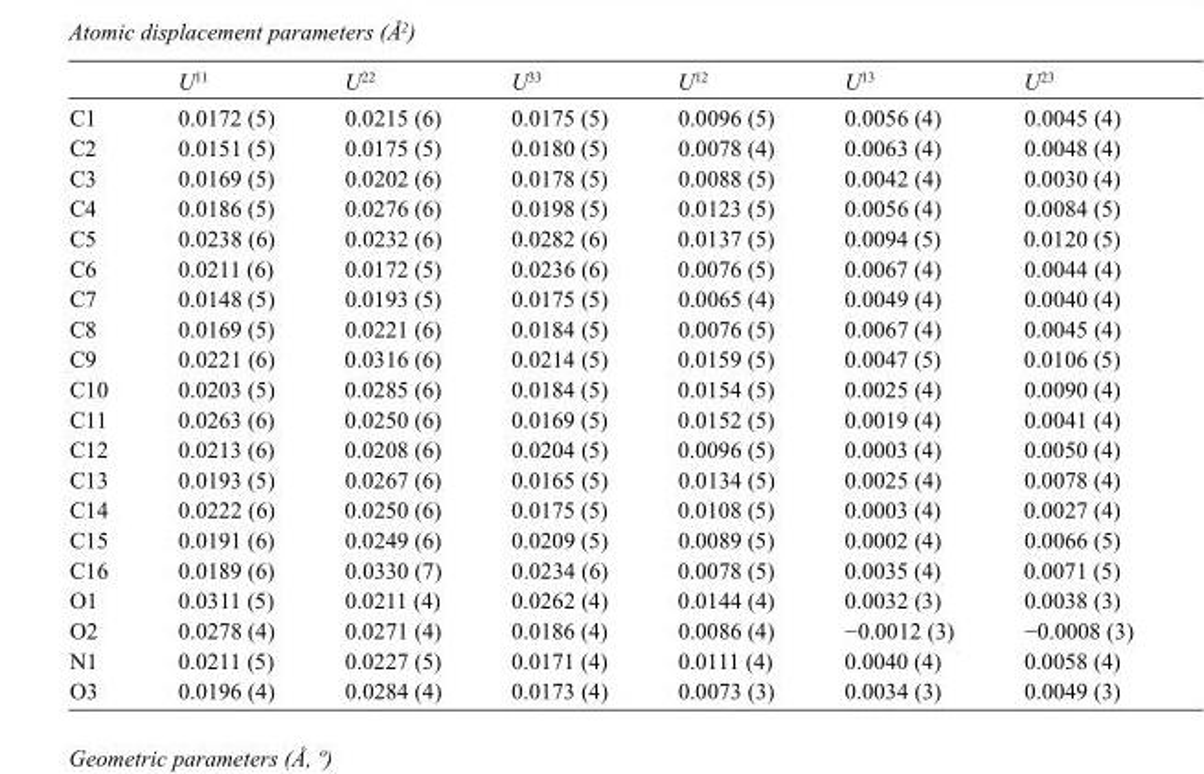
<table><thead><tr><td></td><td>U<sup>11</sup></td><td>U<sup>22</sup></td><td>U<sup>33</sup></td><td>U<sup>12</sup></td><td>U<sup>13</sup></td><td>U<sup>23</sup></td></tr></thead><tbody><tr><td>C1</td><td>0.0172 (5)</td><td>0.0215 (6)</td><td>0.0175 (5)</td><td>0.0096 (5)</td><td>0.0056 (4)</td><td>0.0045 (4)</td></tr><tr><td>C2</td><td>0.0151 (5)</td><td>0.0175 (5)</td><td>0.0180 (5)</td><td>0.0078 (4)</td><td>0.0063 (4)</td><td>0.0048 (4)</td></tr><tr><td>C3</td><td>0.0169 (5)</td><td>0.0202 (6)</td><td>0.0178 (5)</td><td>0.0088 (5)</td><td>0.0042 (4)</td><td>0.0030 (4)</td></tr><tr><td>C4</td><td>0.0186 (5)</td><td>0.0276 (6)</td><td>0.0198 (5)</td><td>0.0123 (5)</td><td>0.0056 (4)</td><td>0.0084 (5)</td></tr><tr><td>C5</td><td>0.0238 (6)</td><td>0.0232 (6)</td><td>0.0282 (6)</td><td>0.0137 (5)</td><td>0.0094 (5)</td><td>0.0120 (5)</td></tr><tr><td>C6</td><td>0.0211 (6)</td><td>0.0172 (5)</td><td>0.0236 (6)</td><td>0.0076 (5)</td><td>0.0067 (4)</td><td>0.0044 (4)</td></tr><tr><td>C7</td><td>0.0148 (5)</td><td>0.0193 (5)</td><td>0.0175 (5)</td><td>0.0065 (4)</td><td>0.0049 (4)</td><td>0.0040 (4)</td></tr><tr><td>C8</td><td>0.0169 (5)</td><td>0.0221 (6)</td><td>0.0184 (5)</td><td>0.0076 (5)</td><td>0.0067 (4)</td><td>0.0045 (4)</td></tr><tr><td>C9</td><td>0.0221 (6)</td><td>0.0316 (6)</td><td>0.0214 (5)</td><td>0.0159 (5)</td><td>0.0047 (5)</td><td>0.0106 (5)</td></tr><tr><td>C10</td><td>0.0203 (5)</td><td>0.0285 (6)</td><td>0.0184 (5)</td><td>0.0154 (5)</td><td>0.0025 (4)</td><td>0.0090 (4)</td></tr><tr><td>C11</td><td>0.0263 (6)</td><td>0.0250 (6)</td><td>0.0169 (5)</td><td>0.0152 (5)</td><td>0.0019 (4)</td><td>0.0041 (4)</td></tr><tr><td>C12</td><td>0.0213 (6)</td><td>0.0208 (6)</td><td>0.0204 (5)</td><td>0.0096 (5)</td><td>0.0003 (4)</td><td>0.0050 (4)</td></tr><tr><td>C13</td><td>0.0193 (5)</td><td>0.0267 (6)</td><td>0.0165 (5)</td><td>0.0134 (5)</td><td>0.0025 (4)</td><td>0.0078 (4)</td></tr><tr><td>C14</td><td>0.0222 (6)</td><td>0.0250 (6)</td><td>0.0175 (5)</td><td>0.0108 (5)</td><td>0.0003 (4)</td><td>0.0027 (4)</td></tr><tr><td>C15</td><td>0.0191 (6)</td><td>0.0249 (6)</td><td>0.0209 (5)</td><td>0.0089 (5)</td><td>0.0002 (4)</td><td>0.0066 (5)</td></tr><tr><td>C16</td><td>0.0189 (6)</td><td>0.0330 (7)</td><td>0.0234 (6)</td><td>0.0078 (5)</td><td>0.0035 (4)</td><td>0.0071 (5)</td></tr><tr><td>O1</td><td>0.0311 (5)</td><td>0.0211 (4)</td><td>0.0262 (4)</td><td>0.0144 (4)</td><td>0.0032 (3)</td><td>0.0038 (3)</td></tr><tr><td>O2</td><td>0.0278 (4)</td><td>0.0271 (4)</td><td>0.0186 (4)</td><td>0.0086 (4)</td><td>−0.0012 (3)</td><td>−0.0008 (3)</td></tr><tr><td>N1</td><td>0.0211 (5)</td><td>0.0227 (5)</td><td>0.0171 (4)</td><td>0.0111 (4)</td><td>0.0040 (4)</td><td>0.0058 (4)</td></tr><tr><td>O3</td><td>0.0196 (4)</td><td>0.0284 (4)</td><td>0.0173 (4)</td><td>0.0073 (3)</td><td>0.0034 (3)</td><td>0.0049 (3)</td></tr></tbody></table>